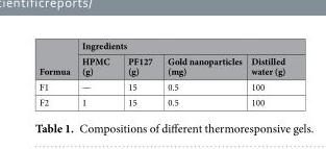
<table><thead><tr><td rowspan="2">Formua</td><td colspan="4">Ingredients</td></tr><tr><td>HPMC (g)</td><td>PF127 (g)</td><td>Gold nanoparticles (mg)</td><td>Distilled water (g)</td></tr></thead><tbody><tr><td>F1</td><td>—</td><td>15</td><td>0.5</td><td>100</td></tr><tr><td>F2</td><td>1</td><td>15</td><td>0.5</td><td>100</td></tr></tbody></table>